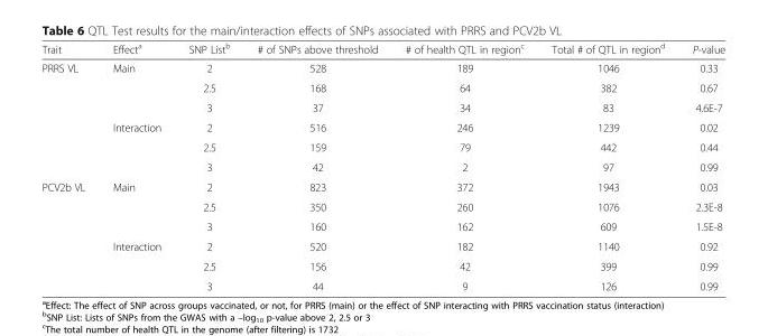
<table><thead><tr><td>Trait</td><td>Effect<sup>a</sup></td><td>SNP List<sup>b</sup></td><td># of SNPs above threshold</td><td># of health QTL in region<sup>c</sup></td><td>Total # of QTL in region<sup>d</sup></td><td>P-value</td></tr></thead><tbody><tr><td rowspan="6">PRRS VL</td><td rowspan="3">Main</td><td>2</td><td>528</td><td>189</td><td>1046</td><td>0.33</td></tr><tr><td>2.5</td><td>168</td><td>64</td><td>382</td><td>0.67</td></tr><tr><td>3</td><td>37</td><td>34</td><td>83</td><td>4.6E-7</td></tr><tr><td rowspan="3">Interaction</td><td>2</td><td>516</td><td>246</td><td>1239</td><td>0.02</td></tr><tr><td>2.5</td><td>159</td><td>79</td><td>442</td><td>0.44</td></tr><tr><td>3</td><td>42</td><td>2</td><td>97</td><td>0.99</td></tr><tr><td rowspan="6">PCV2b VL</td><td rowspan="3">Main</td><td>2</td><td>823</td><td>372</td><td>1943</td><td>0.03</td></tr><tr><td>2.5</td><td>350</td><td>260</td><td>1076</td><td>2.3E-8</td></tr><tr><td>3</td><td>160</td><td>162</td><td>609</td><td>1.5E-8</td></tr><tr><td rowspan="3">Interaction</td><td>2</td><td>520</td><td>182</td><td>1140</td><td>0.92</td></tr><tr><td>2.5</td><td>156</td><td>42</td><td>399</td><td>0.99</td></tr><tr><td>3</td><td>44</td><td>9</td><td>126</td><td>0.99</td></tr></tbody></table>